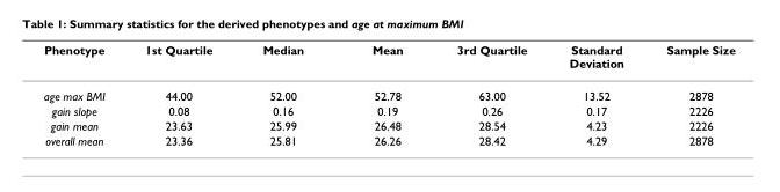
<table><thead><tr><td>Phenotype</td><td>1st Quartile</td><td>Median</td><td>Mean</td><td>3rd Quartile</td><td>Standard Deviation</td><td>Sample Size</td></tr></thead><tbody><tr><td>age max BMI</td><td>44.00</td><td>52.00</td><td>52.78</td><td>63.00</td><td>13.52</td><td>2878</td></tr><tr><td>gain slope</td><td>0.08</td><td>0.16</td><td>0.19</td><td>0.26</td><td>0.17</td><td>2226</td></tr><tr><td>gain mean</td><td>23.63</td><td>25.99</td><td>26.48</td><td>28.54</td><td>4.23</td><td>2226</td></tr><tr><td>overall mean</td><td>23.36</td><td>25.81</td><td>26.26</td><td>28.42</td><td>4.29</td><td>2878</td></tr></tbody></table>